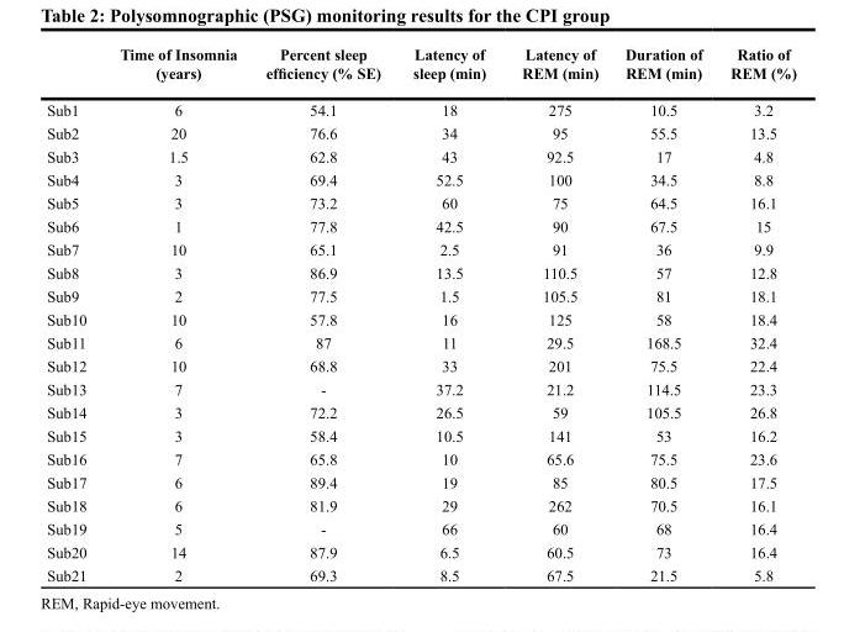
<table><thead><tr><td></td><td>Time of Insomnia (years)</td><td>Percent sleep efficiency (% SE)</td><td>Latency of sleep (min)</td><td>Latency of REM (min)</td><td>Duration of REM (min)</td><td>Ratio of REM (%)</td></tr></thead><tbody><tr><td>Sub1</td><td>6</td><td>54.1</td><td>18</td><td>275</td><td>10.5</td><td>3.2</td></tr><tr><td>Sub2</td><td>20</td><td>76.6</td><td>34</td><td>95</td><td>55.5</td><td>13.5</td></tr><tr><td>Sub3</td><td>1.5</td><td>62.8</td><td>43</td><td>92.5</td><td>17</td><td>4.8</td></tr><tr><td>Sub4</td><td>3</td><td>69.4</td><td>52.5</td><td>100</td><td>34.5</td><td>8.8</td></tr><tr><td>Sub5</td><td>3</td><td>73.2</td><td>60</td><td>75</td><td>64.5</td><td>16.1</td></tr><tr><td>Sub6</td><td>1</td><td>77.8</td><td>42.5</td><td>90</td><td>67.5</td><td>15</td></tr><tr><td>Sub7</td><td>10</td><td>65.1</td><td>2.5</td><td>91</td><td>36</td><td>9.9</td></tr><tr><td>Sub8</td><td>3</td><td>86.9</td><td>13.5</td><td>110.5</td><td>57</td><td>12.8</td></tr><tr><td>Sub9</td><td>2</td><td>77.5</td><td>1.5</td><td>105.5</td><td>81</td><td>18.1</td></tr><tr><td>Sub10</td><td>10</td><td>57.8</td><td>16</td><td>125</td><td>58</td><td>18.4</td></tr><tr><td>Sub11</td><td>6</td><td>87</td><td>11</td><td>29.5</td><td>168.5</td><td>32.4</td></tr><tr><td>Sub12</td><td>10</td><td>68.8</td><td>33</td><td>201</td><td>75.5</td><td>22.4</td></tr><tr><td>Sub13</td><td>7</td><td>-</td><td>37.2</td><td>21.2</td><td>114.5</td><td>23.3</td></tr><tr><td>Sub14</td><td>3</td><td>72.2</td><td>26.5</td><td>59</td><td>105.5</td><td>26.8</td></tr><tr><td>Sub15</td><td>3</td><td>58.4</td><td>10.5</td><td>141</td><td>53</td><td>16.2</td></tr><tr><td>Sub16</td><td>7</td><td>65.8</td><td>10</td><td>65.6</td><td>75.5</td><td>23.6</td></tr><tr><td>Sub17</td><td>6</td><td>89.4</td><td>19</td><td>85</td><td>80.5</td><td>17.5</td></tr><tr><td>Sub18</td><td>6</td><td>81.9</td><td>29</td><td>262</td><td>70.5</td><td>16.1</td></tr><tr><td>Sub19</td><td>5</td><td>-</td><td>66</td><td>60</td><td>68</td><td>16.4</td></tr><tr><td>Sub20</td><td>14</td><td>87.9</td><td>6.5</td><td>60.5</td><td>73</td><td>16.4</td></tr><tr><td>Sub21</td><td>2</td><td>69.3</td><td>8.5</td><td>67.5</td><td>21.5</td><td>5.8</td></tr></tbody></table>